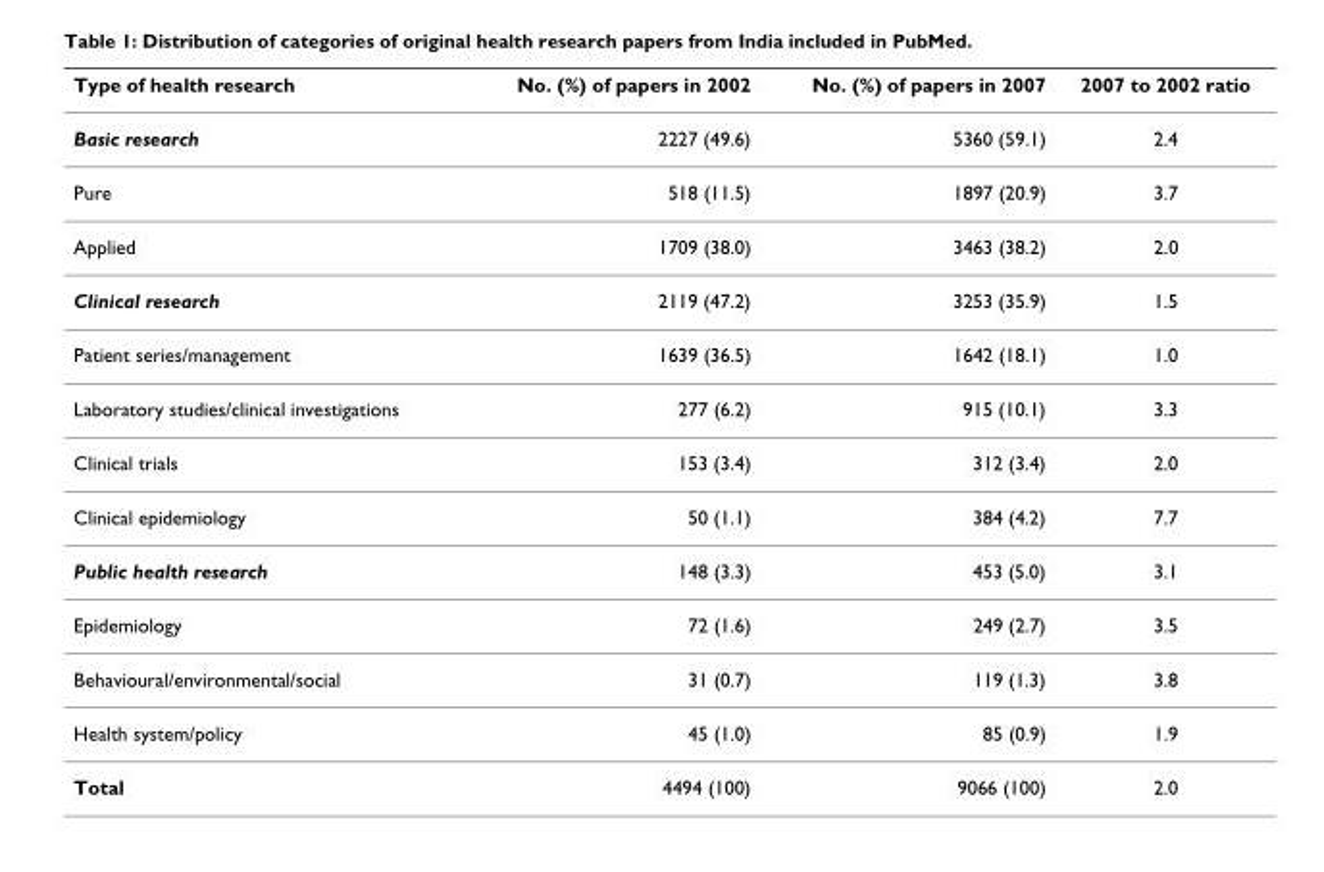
<table><thead><tr><td>Type of health research</td><td>No. (%) of papers in 2002</td><td>No. (%) of papers in 2007</td><td>2007 to 2002 ratio</td></tr></thead><tbody><tr><td>Basic research</td><td>2227 (49.6)</td><td>5360 (59.1)</td><td>2.4</td></tr><tr><td>Pure</td><td>518 (11.5)</td><td>1897 (20.9)</td><td>3.7</td></tr><tr><td>Applied</td><td>1709 (38.0)</td><td>3463 (38.2)</td><td>2.0</td></tr><tr><td>Clinical research</td><td>2119 (47.2)</td><td>3253 (35.9)</td><td>1.5</td></tr><tr><td>Patient series/management</td><td>1639 (36.5)</td><td>1642 (18.1)</td><td>1.0</td></tr><tr><td>Laboratory studies/clinical investigations</td><td>277 (6.2)</td><td>915 (10.1)</td><td>3.3</td></tr><tr><td>Clinical trials</td><td>153 (3.4)</td><td>312 (3.4)</td><td>2.0</td></tr><tr><td>Clinical epidemiology</td><td>50 (1.1)</td><td>384 (4.2)</td><td>7.7</td></tr><tr><td>Public health research</td><td>148 (3.3)</td><td>453 (5.0)</td><td>3.1</td></tr><tr><td>Epidemiology</td><td>72 (1.6)</td><td>249 (2.7)</td><td>3.5</td></tr><tr><td>Behavioural/environmental/social</td><td>31 (0.7)</td><td>119 (1.3)</td><td>3.8</td></tr><tr><td>Health system/policy</td><td>45 (1.0)</td><td>85 (0.9)</td><td>1.9</td></tr><tr><td>Total</td><td>4494 (100)</td><td>9066 (100)</td><td>2.0</td></tr></tbody></table>